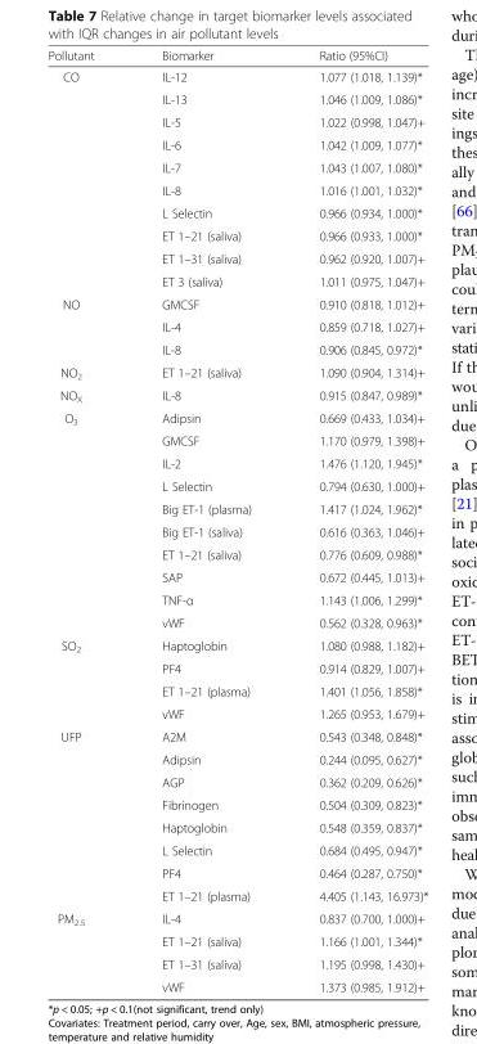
<table><thead><tr><td>Pollutant</td><td>Biomarker</td><td>Ratio (95%CI)</td></tr></thead><tbody><tr><td rowspan="10">CO</td><td>IL-12</td><td>1.077 (1.018, 1.139)*</td></tr><tr><td>IL-13</td><td>1.046 (1.009, 1.086)*</td></tr><tr><td>IL-5</td><td>1.022 (0.998, 1.047)+</td></tr><tr><td>IL-6</td><td>1.042 (1.009, 1.077)*</td></tr><tr><td>IL-7</td><td>1.043 (1.007, 1.080)*</td></tr><tr><td>IL-8</td><td>1.016 (1.001, 1.032)*</td></tr><tr><td>L Selectin</td><td>0.966 (0.934, 1.000)*</td></tr><tr><td>ET 1–21 (saliva)</td><td>0.966 (0.933, 1.000)*</td></tr><tr><td>ET 1–31 (saliva)</td><td>0.962 (0.920, 1.007)+</td></tr><tr><td>ET 3 (saliva)</td><td>1.011 (0.975, 1.047)+</td></tr><tr><td rowspan="3">NO</td><td>GMCSF</td><td>0.910 (0.818, 1.012)+</td></tr><tr><td>IL-4</td><td>0.859 (0.718, 1.027)+</td></tr><tr><td>IL-8</td><td>0.906 (0.845, 0.972)*</td></tr><tr><td>NO<sub>2</sub></td><td>ET 1–21 (saliva)</td><td>1.090 (0.904, 1.314)+</td></tr><tr><td>NO<sub>X</sub></td><td>IL-8</td><td>0.915 (0.847, 0.989)*</td></tr><tr><td rowspan="10">O<sub>3</sub></td><td>Adipsin</td><td>0.669 (0.433, 1.034)+</td></tr><tr><td>GMCSF</td><td>1.170 (0.979, 1.398)+</td></tr><tr><td>IL-2</td><td>1.476 (1.120, 1.945)*</td></tr><tr><td>L Selectin</td><td>0.794 (0.630, 1.000)+</td></tr><tr><td>Big ET-1 (plasma)</td><td>1.417 (1.024, 1.962)*</td></tr><tr><td>Big ET-1 (saliva)</td><td>0.616 (0.363, 1.046)+</td></tr><tr><td>ET 1–21 (saliva)</td><td>0.776 (0.609, 0.988)*</td></tr><tr><td>SAP</td><td>0.672 (0.445, 1.013)+</td></tr><tr><td>TNF-α</td><td>1.143 (1.006, 1.299)*</td></tr><tr><td>vWF</td><td>0.562 (0.328, 0.963)*</td></tr><tr><td rowspan="4">SO<sub>2</sub></td><td>Haptoglobin</td><td>1.080 (0.988, 1.182)+</td></tr><tr><td>PF4</td><td>0.914 (0.829, 1.007)+</td></tr><tr><td>ET 1–21 (plasma)</td><td>1.401 (1.056, 1.858)*</td></tr><tr><td>vWF</td><td>1.265 (0.953, 1.679)+</td></tr><tr><td rowspan="8">UFP</td><td>A2M</td><td>0.543 (0.348, 0.848)*</td></tr><tr><td>Adipsin</td><td>0.244 (0.095, 0.627)*</td></tr><tr><td>AGP</td><td>0.362 (0.209, 0.626)*</td></tr><tr><td>Fibrinogen</td><td>0.504 (0.309, 0.823)*</td></tr><tr><td>Haptoglobin</td><td>0.548 (0.359, 0.837)*</td></tr><tr><td>L Selectin</td><td>0.684 (0.495, 0.947)*</td></tr><tr><td>PF4</td><td>0.464 (0.287, 0.750)*</td></tr><tr><td>ET 1–21 (plasma)</td><td>4.405 (1.143, 16.973)*</td></tr><tr><td rowspan="4">PM<sub>2.5</sub></td><td>IL-4</td><td>0.837 (0.700, 1.000)+</td></tr><tr><td>ET 1–21 (saliva)</td><td>1.166 (1.001, 1.344)*</td></tr><tr><td>ET 1–31 (saliva)</td><td>1.195 (0.998, 1.430)+</td></tr><tr><td>vWF</td><td>1.373 (0.985, 1.912)+</td></tr></tbody></table>